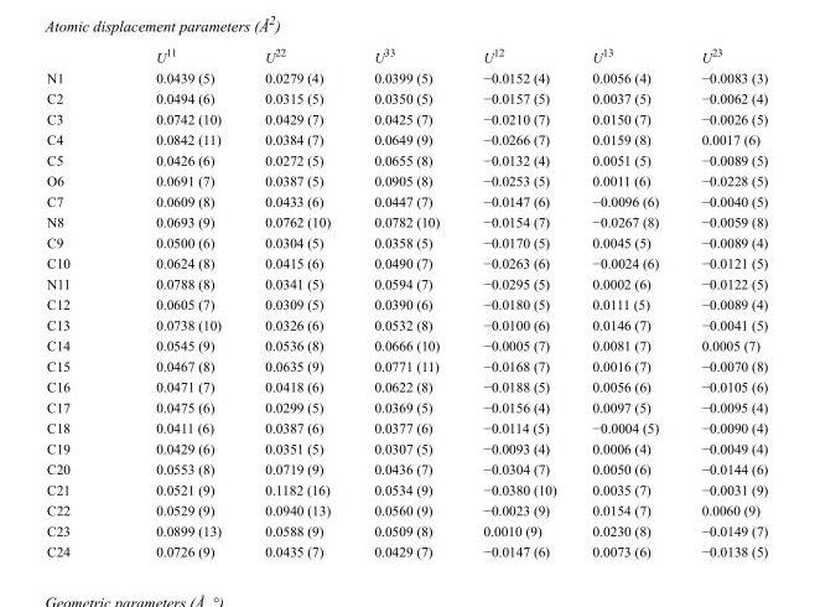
<table><thead><tr><td></td><td>U<sup>11</sup></td><td>U<sup>22</sup></td><td>U<sup>33</sup></td><td>U<sup>12</sup></td><td>U<sup>13</sup></td><td>U<sup>23</sup></td></tr></thead><tbody><tr><td>N1</td><td>0.0439 (5)</td><td>0.0279 (4)</td><td>0.0399 (5)</td><td>−0.0152 (4)</td><td>0.0056 (4)</td><td>−0.0083 (3)</td></tr><tr><td>C2</td><td>0.0494 (6)</td><td>0.0315 (5)</td><td>0.0350 (5)</td><td>−0.0157 (5)</td><td>0.0037 (5)</td><td>−0.0062 (4)</td></tr><tr><td>C3</td><td>0.0742 (10)</td><td>0.0429 (7)</td><td>0.0425 (7)</td><td>−0.0210 (7)</td><td>0.0150 (7)</td><td>−0.0026 (5)</td></tr><tr><td>C4</td><td>0.0842 (11)</td><td>0.0384 (7)</td><td>0.0649 (9)</td><td>−0.0266 (7)</td><td>0.0159 (8)</td><td>0.0017 (6)</td></tr><tr><td>C5</td><td>0.0426 (6)</td><td>0.0272 (5)</td><td>0.0655 (8)</td><td>−0.0132 (4)</td><td>0.0051 (5)</td><td>−0.0089 (5)</td></tr><tr><td>O6</td><td>0.0691 (7)</td><td>0.0387 (5)</td><td>0.0905 (8)</td><td>−0.0253 (5)</td><td>0.0011 (6)</td><td>−0.0228 (5)</td></tr><tr><td>C7</td><td>0.0609 (8)</td><td>0.0433 (6)</td><td>0.0447 (7)</td><td>−0.0147 (6)</td><td>−0.0096 (6)</td><td>−0.0040 (5)</td></tr><tr><td>N8</td><td>0.0693 (9)</td><td>0.0762 (10)</td><td>0.0782 (10)</td><td>−0.0154 (7)</td><td>−0.0267 (8)</td><td>−0.0059 (8)</td></tr><tr><td>C9</td><td>0.0500 (6)</td><td>0.0304 (5)</td><td>0.0358 (5)</td><td>−0.0170 (5)</td><td>0.0045 (5)</td><td>−0.0089 (4)</td></tr><tr><td>C10</td><td>0.0624 (8)</td><td>0.0415 (6)</td><td>0.0490 (7)</td><td>−0.0263 (6)</td><td>−0.0024 (6)</td><td>−0.0121 (5)</td></tr><tr><td>N11</td><td>0.0788 (8)</td><td>0.0341 (5)</td><td>0.0594 (7)</td><td>−0.0295 (5)</td><td>0.0002 (6)</td><td>−0.0122 (5)</td></tr><tr><td>C12</td><td>0.0605 (7)</td><td>0.0309 (5)</td><td>0.0390 (6)</td><td>−0.0180 (5)</td><td>0.0111 (5)</td><td>−0.0089 (4)</td></tr><tr><td>C13</td><td>0.0738 (10)</td><td>0.0326 (6)</td><td>0.0532 (8)</td><td>−0.0100 (6)</td><td>0.0146 (7)</td><td>−0.0041 (5)</td></tr><tr><td>C14</td><td>0.0545 (9)</td><td>0.0536 (8)</td><td>0.0666 (10)</td><td>−0.0005 (7)</td><td>0.0081 (7)</td><td>0.0005 (7)</td></tr><tr><td>C15</td><td>0.0467 (8)</td><td>0.0635 (9)</td><td>0.0771 (11)</td><td>−0.0168 (7)</td><td>0.0016 (7)</td><td>−0.0070 (8)</td></tr><tr><td>C16</td><td>0.0471 (7)</td><td>0.0418 (6)</td><td>0.0622 (8)</td><td>−0.0188 (5)</td><td>0.0056 (6)</td><td>−0.0105 (6)</td></tr><tr><td>C17</td><td>0.0475 (6)</td><td>0.0299 (5)</td><td>0.0369 (5)</td><td>−0.0156 (4)</td><td>0.0097 (5)</td><td>−0.0095 (4)</td></tr><tr><td>C18</td><td>0.0411 (6)</td><td>0.0387 (6)</td><td>0.0377 (6)</td><td>−0.0114 (5)</td><td>−0.0004 (5)</td><td>−0.0090 (4)</td></tr><tr><td>C19</td><td>0.0429 (6)</td><td>0.0351 (5)</td><td>0.0307 (5)</td><td>−0.0093 (4)</td><td>0.0006 (4)</td><td>−0.0049 (4)</td></tr><tr><td>C20</td><td>0.0553 (8)</td><td>0.0719 (9)</td><td>0.0436 (7)</td><td>−0.0304 (7)</td><td>0.0050 (6)</td><td>−0.0144 (6)</td></tr><tr><td>C21</td><td>0.0521 (9)</td><td>0.1182 (16)</td><td>0.0534 (9)</td><td>−0.0380 (10)</td><td>0.0035 (7)</td><td>−0.0031 (9)</td></tr><tr><td>C22</td><td>0.0529 (9)</td><td>0.0940 (13)</td><td>0.0560 (9)</td><td>−0.0023 (9)</td><td>0.0154 (7)</td><td>0.0060 (9)</td></tr><tr><td>C23</td><td>0.0899 (13)</td><td>0.0588 (9)</td><td>0.0509 (8)</td><td>0.0010 (9)</td><td>0.0230 (8)</td><td>−0.0149 (7)</td></tr><tr><td>C24</td><td>0.0726 (9)</td><td>0.0435 (7)</td><td>0.0429 (7)</td><td>−0.0147 (6)</td><td>0.0073 (6)</td><td>−0.0138 (5)</td></tr></tbody></table>